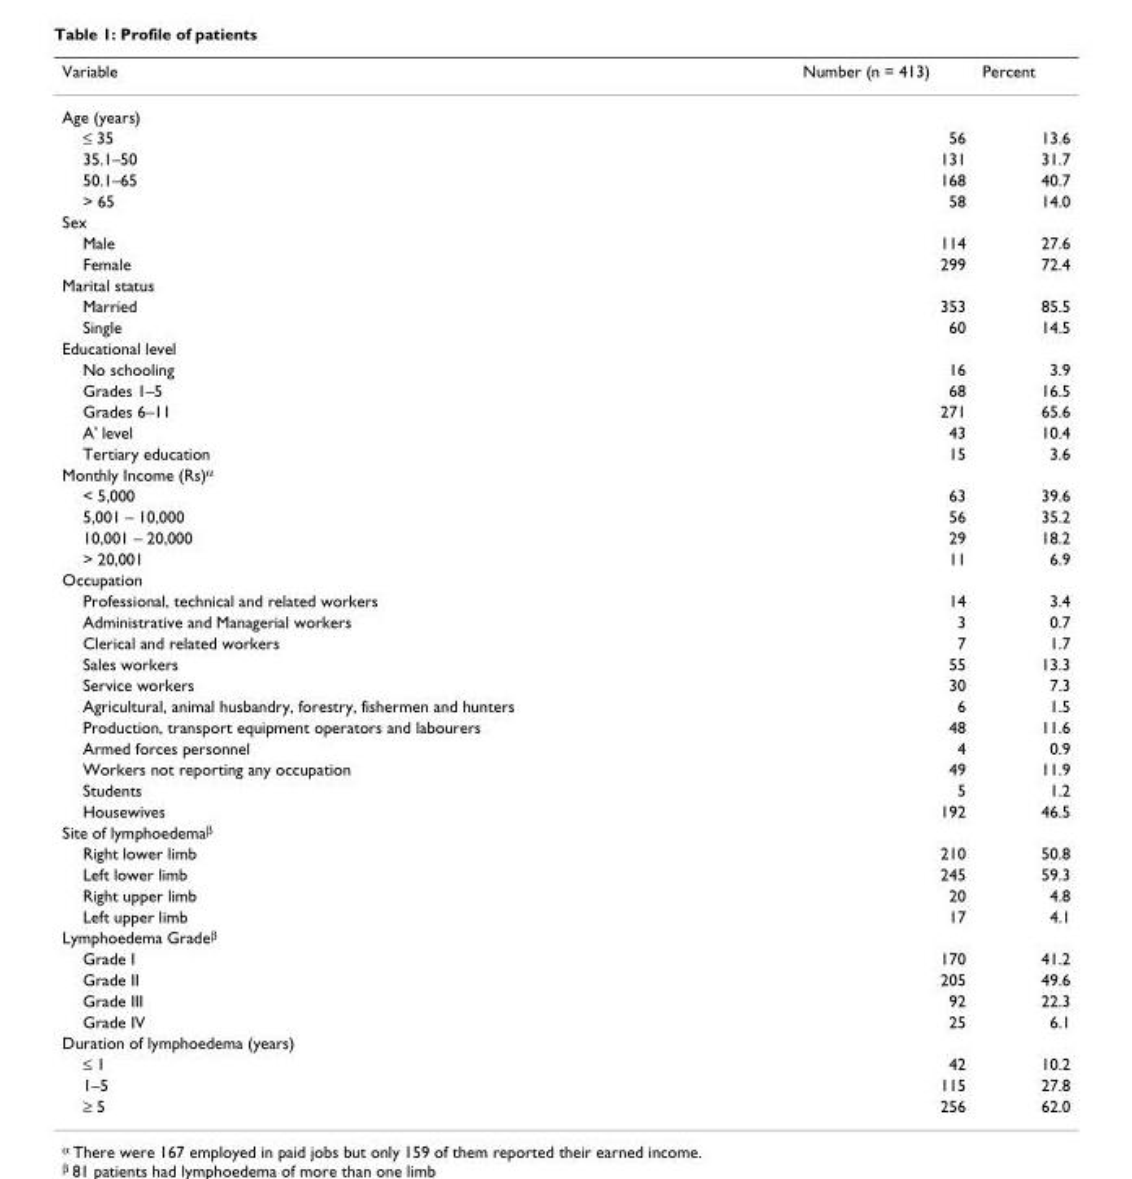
<table><thead><tr><td>Variable</td><td>Number (n = 413)</td><td>Percent</td></tr></thead><tbody><tr><td colspan="3">Age (years)</td></tr><tr><td>≤ 35</td><td>56</td><td>13.6</td></tr><tr><td>35.1–50</td><td>131</td><td>31.7</td></tr><tr><td>50.1–65</td><td>168</td><td>40.7</td></tr><tr><td>&gt; 65</td><td>58</td><td>14.0</td></tr><tr><td colspan="3">Sex</td></tr><tr><td>Male</td><td>114</td><td>27.6</td></tr><tr><td>Female</td><td>299</td><td>72.4</td></tr><tr><td colspan="3">Marital status</td></tr><tr><td>Married</td><td>353</td><td>85.5</td></tr><tr><td>Single</td><td>60</td><td>14.5</td></tr><tr><td colspan="3">Educational level</td></tr><tr><td>No schooling</td><td>16</td><td>3.9</td></tr><tr><td>Grades 1–5</td><td>68</td><td>16.5</td></tr><tr><td>Grades 6–11</td><td>271</td><td>65.6</td></tr><tr><td>A&#x27; level</td><td>43</td><td>10.4</td></tr><tr><td>Tertiary education</td><td>15</td><td>3.6</td></tr><tr><td colspan="3">Monthly Income (Rs)<sup>α</sup></td></tr><tr><td>&lt; 5,000</td><td>63</td><td>39.6</td></tr><tr><td>5,001 – 10,000</td><td>56</td><td>35.2</td></tr><tr><td>10,001 – 20,000</td><td>29</td><td>18.2</td></tr><tr><td>&gt; 20,001</td><td>11</td><td>6.9</td></tr><tr><td colspan="3">Occupation</td></tr><tr><td>Professional, technical and related workers</td><td>14</td><td>3.4</td></tr><tr><td>Administrative and Managerial workers</td><td>3</td><td>0.7</td></tr><tr><td>Clerical and related workers</td><td>7</td><td>1.7</td></tr><tr><td>Sales workers</td><td>55</td><td>13.3</td></tr><tr><td>Service workers</td><td>30</td><td>7.3</td></tr><tr><td>Agricultural, animal husbandry, forestry, fishermen and hunters</td><td>6</td><td>1.5</td></tr><tr><td>Production, transport equipment operators and labourers</td><td>48</td><td>11.6</td></tr><tr><td>Armed forces personnel</td><td>4</td><td>0.9</td></tr><tr><td>Workers not reporting any occupation</td><td>49</td><td>11.9</td></tr><tr><td>Students</td><td>5</td><td>1.2</td></tr><tr><td>Housewives</td><td>192</td><td>46.5</td></tr><tr><td colspan="3">Site of lymphoedema<sup>β</sup></td></tr><tr><td>Right lower limb</td><td>210</td><td>50.8</td></tr><tr><td>Left lower limb</td><td>245</td><td>59.3</td></tr><tr><td>Right upper limb</td><td>20</td><td>4.8</td></tr><tr><td>Left upper limb</td><td>17</td><td>4.1</td></tr><tr><td colspan="3">Lymphoedema Grade<sup>β</sup></td></tr><tr><td>Grade I</td><td>170</td><td>41.2</td></tr><tr><td>Grade II</td><td>205</td><td>49.6</td></tr><tr><td>Grade III</td><td>92</td><td>22.3</td></tr><tr><td>Grade IV</td><td>25</td><td>6.1</td></tr><tr><td colspan="3">Duration of lymphoedema (years)</td></tr><tr><td>≤ 1</td><td>42</td><td>10.2</td></tr><tr><td>1–5</td><td>115</td><td>27.8</td></tr><tr><td>≥ 5</td><td>256</td><td>62.0</td></tr></tbody></table>